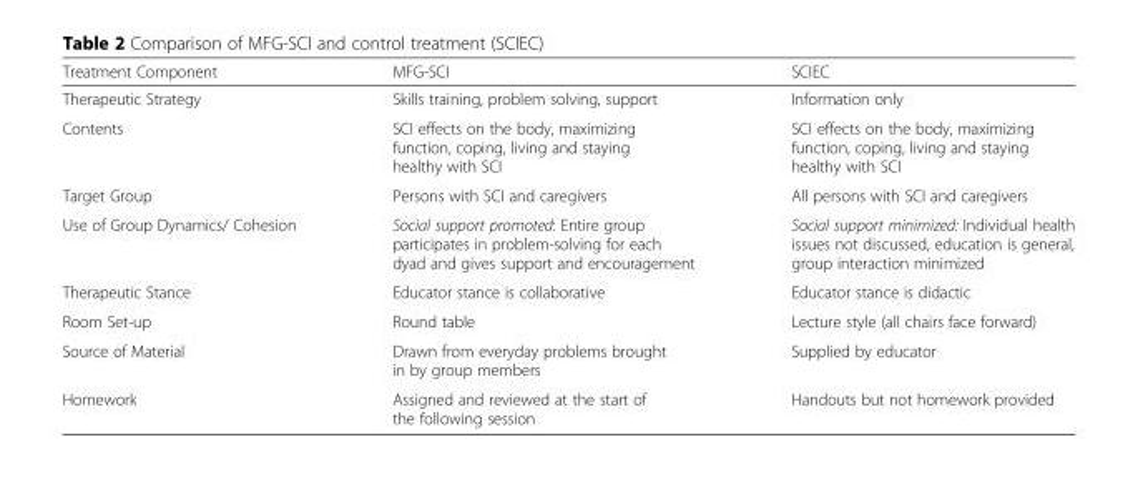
<table><thead><tr><td>Treatment Component</td><td>MFG-SCI</td><td>SCIEC</td></tr></thead><tbody><tr><td>Therapeutic Strategy</td><td>Skills training, problem solving, support</td><td>Information only</td></tr><tr><td>Contents</td><td>SCI effects on the body, maximizing function, coping, living and staying healthy with SCI</td><td>SCI effects on the body, maximizing function, coping, living and staying healthy with SCI</td></tr><tr><td>Target Group</td><td>Persons with SCI and caregivers</td><td>All persons with SCI and caregivers</td></tr><tr><td>Use of Group Dynamics/ Cohesion</td><td>Social support promoted: Entire group participates in problem-solving for each dyad and gives support and encouragement</td><td>Social support minimized: Individual health issues not discussed, education is general, group interaction minimized</td></tr><tr><td>Therapeutic Stance</td><td>Educator stance is collaborative</td><td>Educator stance is didactic</td></tr><tr><td>Room Set-up</td><td>Round table</td><td>Lecture style (all chairs face forward)</td></tr><tr><td>Source of Material</td><td>Drawn from everyday problems brought in by group members</td><td>Supplied by educator</td></tr><tr><td>Homework</td><td>Assigned and reviewed at the start of the following session</td><td>Handouts but not homework provided</td></tr></tbody></table>